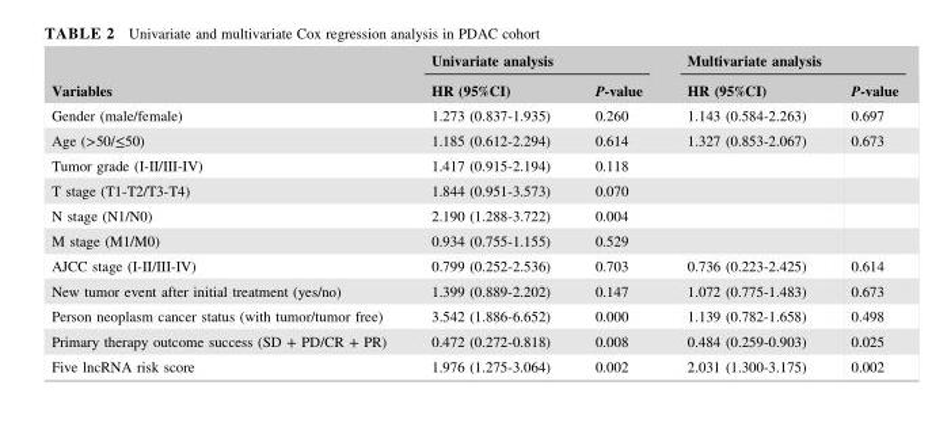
<table><thead><tr><td rowspan="2">Variables</td><td colspan="2">Univariate analysis</td><td colspan="2">Multivariate analysis</td></tr><tr><td>HR (95%CI)</td><td>P-value</td><td>HR (95%CI)</td><td>P-value</td></tr></thead><tbody><tr><td>Gender (male/female)</td><td>1.273 (0.837-1.935)</td><td>0.260</td><td>1.143 (0.584-2.263)</td><td>0.697</td></tr><tr><td>Age (&gt;50/≤50)</td><td>1.185 (0.612-2.294)</td><td>0.614</td><td>1.327 (0.853-2.067)</td><td>0.673</td></tr><tr><td>Tumor grade (I-II/III-IV)</td><td>1.417 (0.915-2.194)</td><td>0.118</td><td></td><td></td></tr><tr><td>T stage (T1-T2/T3-T4)</td><td>1.844 (0.951-3.573)</td><td>0.070</td><td></td><td></td></tr><tr><td>N stage (N1/N0)</td><td>2.190 (1.288-3.722)</td><td>0.004</td><td></td><td></td></tr><tr><td>M stage (M1/M0)</td><td>0.934 (0.755-1.155)</td><td>0.529</td><td></td><td></td></tr><tr><td>AJCC stage (I-II/III-IV)</td><td>0.799 (0.252-2.536)</td><td>0.703</td><td>0.736 (0.223-2.425)</td><td>0.614</td></tr><tr><td>New tumor event after initial treatment (yes/no)</td><td>1.399 (0.889-2.202)</td><td>0.147</td><td>1.072 (0.775-1.483)</td><td>0.673</td></tr><tr><td>Person neoplasm cancer status (with tumor/tumor free)</td><td>3.542 (1.886-6.652)</td><td>0.000</td><td>1.139 (0.782-1.658)</td><td>0.498</td></tr><tr><td>Primary therapy outcome success (SD + PD/CR + PR)</td><td>0.472 (0.272-0.818)</td><td>0.008</td><td>0.484 (0.259-0.903)</td><td>0.025</td></tr><tr><td>Five lncRNA risk score</td><td>1.976 (1.275-3.064)</td><td>0.002</td><td>2.031 (1.300-3.175)</td><td>0.002</td></tr></tbody></table>